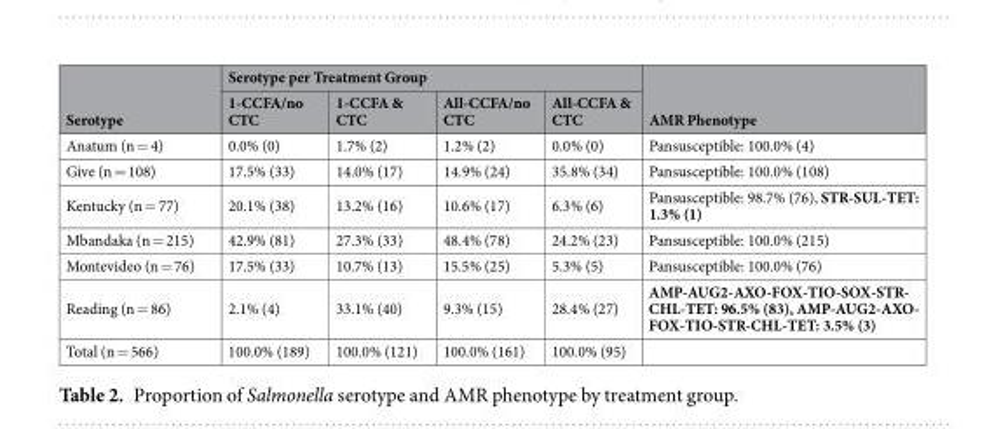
<table><thead><tr><td rowspan="2">Serotype</td><td colspan="4">Serotype per Treatment Group</td><td rowspan="2">AMR Phenotype</td></tr><tr><td>1-CCFA/no CTC</td><td>1-CCFA &amp; CTC</td><td>All-CCFA/no CTC</td><td>All-CCFA &amp; CTC</td></tr></thead><tbody><tr><td>Anatum (n = 4)</td><td>0.0% (0)</td><td>1.7% (2)</td><td>1.2% (2)</td><td>0.0% (0)</td><td>Pansusceptible: 100.0% (4)</td></tr><tr><td>Give (n = 108)</td><td>17.5% (33)</td><td>14.0% (17)</td><td>14.9% (24)</td><td>35.8% (34)</td><td>Pansusceptible: 100.0% (108)</td></tr><tr><td>Kentucky (n = 77)</td><td>20.1% (38)</td><td>13.2% (16)</td><td>10.6% (17)</td><td>6.3% (6)</td><td>Pansusceptible: 98.7% (76), STR-SUL-TET: 1.3% (1)</td></tr><tr><td>Mbandaka (n = 215)</td><td>42.9% (81)</td><td>27.3% (33)</td><td>48.4% (78)</td><td>24.2% (23)</td><td>Pansusceptible: 100.0% (215)</td></tr><tr><td>Montevideo (n = 76)</td><td>17.5% (33)</td><td>10.7% (13)</td><td>15.5% (25)</td><td>5.3% (5)</td><td>Pansusceptible: 100.0% (76)</td></tr><tr><td>Reading (n = 86)</td><td>2.1% (4)</td><td>33.1% (40)</td><td>9.3% (15)</td><td>28.4% (27)</td><td>AMP-AUG2-AXO-FOX-TIO-SOX-STR- CHL-TET: 96.5% (83), AMP-AUG2-AXO- FOX-TIO-STR-CHL-TET: 3.5% (3)</td></tr><tr><td>Total (n = 566)</td><td>100.0% (189)</td><td>100.0% (121)</td><td>100.0% (161)</td><td>100.0% (95)</td><td></td></tr></tbody></table>